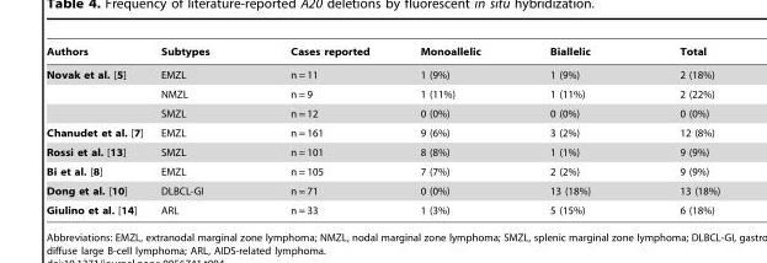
<table><thead><tr><td>Authors</td><td>Subtypes</td><td>Cases reported</td><td>Monoallelic</td><td>Biallelic</td><td>Total</td></tr></thead><tbody><tr><td rowspan="3">Novak et al. [5]</td><td>EMZL</td><td>n = 11</td><td>1 (9%)</td><td>1 (9%)</td><td>2 (18%)</td></tr><tr><td>NMZL</td><td>n = 9</td><td>1 (11%)</td><td>1 (11%)</td><td>2 (22%)</td></tr><tr><td>SMZL</td><td>n = 12</td><td>0 (0%)</td><td>0 (0%)</td><td>0 (0%)</td></tr><tr><td>Chanudet et al. [7]</td><td>EMZL</td><td>n = 161</td><td>9 (6%)</td><td>3 (2%)</td><td>12 (8%)</td></tr><tr><td>Rossi et al. [13]</td><td>SMZL</td><td>n = 101</td><td>8 (8%)</td><td>1 (1%)</td><td>9 (9%)</td></tr><tr><td>Bi et al. [8]</td><td>EMZL</td><td>n = 105</td><td>7 (7%)</td><td>2 (2%)</td><td>9 (9%)</td></tr><tr><td>Dong et al. [10]</td><td>DLBCL-GI</td><td>n = 71</td><td>0 (0%)</td><td>13 (18%)</td><td>13 (18%)</td></tr><tr><td>Giulino et al. [14]</td><td>ARL</td><td>n = 33</td><td>1 (3%)</td><td>5 (15%)</td><td>6 (18%)</td></tr></tbody></table>